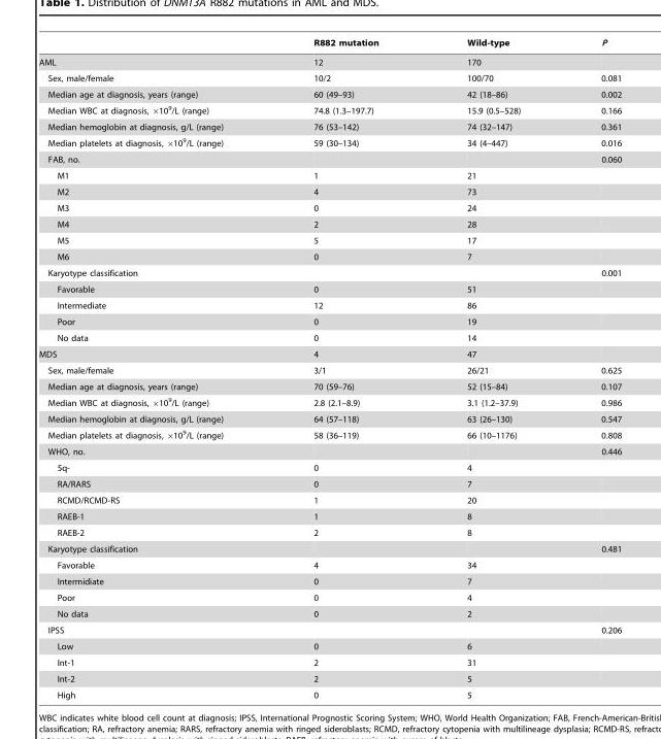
<table><thead><tr><td></td><td>R882 mutation</td><td>Wild-type</td><td>P</td></tr></thead><tbody><tr><td>AML</td><td>12</td><td>170</td><td></td></tr><tr><td>Sex, male/female</td><td>10/2</td><td>100/70</td><td>0.081</td></tr><tr><td>Median age at diagnosis, years (range)</td><td>60 (49–93)</td><td>42 (18–86)</td><td>0.002</td></tr><tr><td>Median WBC at diagnosis, ×10<sup>9</sup>/L (range)</td><td>74.8 (1.3–197.7)</td><td>15.9 (0.5–528)</td><td>0.166</td></tr><tr><td>Median hemoglobin at diagnosis, g/L (range)</td><td>76 (53–142)</td><td>74 (32–147)</td><td>0.361</td></tr><tr><td>Median platelets at diagnosis, ×10<sup>9</sup>/L (range)</td><td>59 (30–134)</td><td>34 (4–447)</td><td>0.016</td></tr><tr><td>FAB, no.</td><td></td><td></td><td>0.060</td></tr><tr><td>M1</td><td>1</td><td>21</td><td></td></tr><tr><td>M2</td><td>4</td><td>73</td><td></td></tr><tr><td>M3</td><td>0</td><td>24</td><td></td></tr><tr><td>M4</td><td>2</td><td>28</td><td></td></tr><tr><td>M5</td><td>5</td><td>17</td><td></td></tr><tr><td>M6</td><td>0</td><td>7</td><td></td></tr><tr><td>Karyotype classification</td><td></td><td></td><td>0.001</td></tr><tr><td>Favorable</td><td>0</td><td>51</td><td></td></tr><tr><td>Intermediate</td><td>12</td><td>86</td><td></td></tr><tr><td>Poor</td><td>0</td><td>19</td><td></td></tr><tr><td>No data</td><td>0</td><td>14</td><td></td></tr><tr><td>MDS</td><td>4</td><td>47</td><td></td></tr><tr><td>Sex, male/female</td><td>3/1</td><td>26/21</td><td>0.625</td></tr><tr><td>Median age at diagnosis, years (range)</td><td>70 (59–76)</td><td>52 (15–84)</td><td>0.107</td></tr><tr><td>Median WBC at diagnosis, ×10<sup>9</sup>/L (range)</td><td>2.8 (2.1–8.9)</td><td>3.1 (1.2–37.9)</td><td>0.986</td></tr><tr><td>Median hemoglobin at diagnosis, g/L (range)</td><td>64 (57–118)</td><td>63 (26–130)</td><td>0.547</td></tr><tr><td>Median platelets at diagnosis, ×10<sup>9</sup>/L (range)</td><td>58 (36–119)</td><td>66 (10–1176)</td><td>0.808</td></tr><tr><td>WHO, no.</td><td></td><td></td><td>0.446</td></tr><tr><td>5q-</td><td>0</td><td>4</td><td></td></tr><tr><td>RA/RARS</td><td>0</td><td>7</td><td></td></tr><tr><td>RCMD/RCMD-RS</td><td>1</td><td>20</td><td></td></tr><tr><td>RAEB-1</td><td>1</td><td>8</td><td></td></tr><tr><td>RAEB-2</td><td>2</td><td>8</td><td></td></tr><tr><td>Karyotype classification</td><td></td><td></td><td>0.481</td></tr><tr><td>Favorable</td><td>4</td><td>34</td><td></td></tr><tr><td>Intermidiate</td><td>0</td><td>7</td><td></td></tr><tr><td>Poor</td><td>0</td><td>4</td><td></td></tr><tr><td>No data</td><td>0</td><td>2</td><td></td></tr><tr><td>IPSS</td><td></td><td></td><td>0.206</td></tr><tr><td>Low</td><td>0</td><td>6</td><td></td></tr><tr><td>Int-1</td><td>2</td><td>31</td><td></td></tr><tr><td>Int-2</td><td>2</td><td>5</td><td></td></tr><tr><td>High</td><td>0</td><td>5</td><td></td></tr></tbody></table>